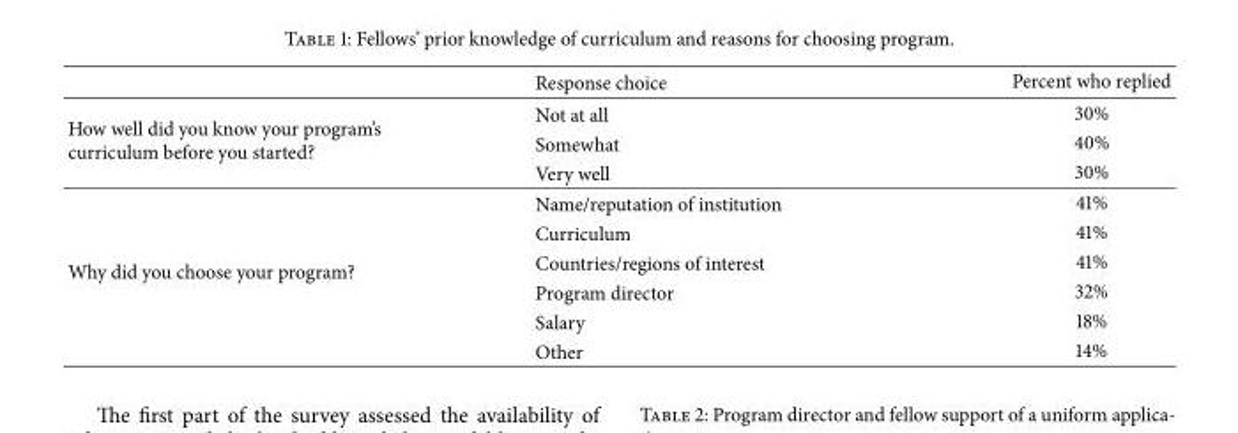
<table><thead><tr><td></td><td>Response choice</td><td>Percent who replied</td></tr></thead><tbody><tr><td rowspan="3">How well did you know your program’s curriculum before you started?</td><td>Not at all</td><td>30%</td></tr><tr><td>Somewhat</td><td>40%</td></tr><tr><td>Very well</td><td>30%</td></tr><tr><td rowspan="6">Why did you choose your program?</td><td>Name/reputation of institution</td><td>41%</td></tr><tr><td>Curriculum</td><td>41%</td></tr><tr><td>Countries/regions of interest</td><td>41%</td></tr><tr><td>Program director</td><td>32%</td></tr><tr><td>Salary</td><td>18%</td></tr><tr><td>Other</td><td>14%</td></tr></tbody></table>